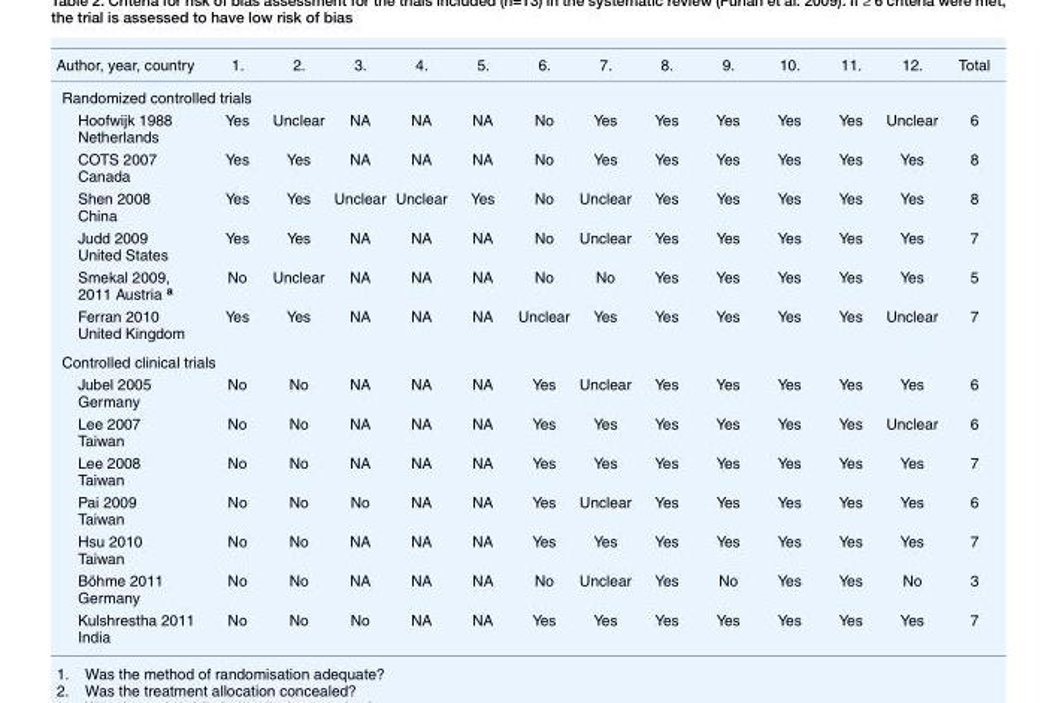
<table><thead><tr><td>Author, year, country</td><td>1.</td><td>2.</td><td>3.</td><td>4.</td><td>5.</td><td>6.</td><td>7.</td><td>8.</td><td>9.</td><td>10.</td><td>11.</td><td>12.</td><td>Total</td></tr></thead><tbody><tr><td colspan="14">Randomized controlled trials</td></tr><tr><td>Hoofwijk 1988 Netherlands</td><td>Yes</td><td>Unclear</td><td>NA</td><td>NA</td><td>NA</td><td>No</td><td>Yes</td><td>Yes</td><td>Yes</td><td>Yes</td><td>Yes</td><td>Unclear</td><td>6</td></tr><tr><td>COTS 2007 Canada</td><td>Yes</td><td>Yes</td><td>NA</td><td>NA</td><td>NA</td><td>No</td><td>Yes</td><td>Yes</td><td>Yes</td><td>Yes</td><td>Yes</td><td>Yes</td><td>8</td></tr><tr><td>Shen 2008 China</td><td>Yes</td><td>Yes</td><td>Unclear</td><td>Unclear</td><td>Yes</td><td>No</td><td>Unclear</td><td>Yes</td><td>Yes</td><td>Yes</td><td>Yes</td><td>Yes</td><td>8</td></tr><tr><td>Judd 2009 United States</td><td>Yes</td><td>Yes</td><td>NA</td><td>NA</td><td>NA</td><td>No</td><td>Unclear</td><td>Yes</td><td>Yes</td><td>Yes</td><td>Yes</td><td>Yes</td><td>7</td></tr><tr><td>Smekal 2009, 2011 Austria <sup>a</sup></td><td>No</td><td>Unclear</td><td>NA</td><td>NA</td><td>NA</td><td>No</td><td>No</td><td>Yes</td><td>Yes</td><td>Yes</td><td>Yes</td><td>Yes</td><td>5</td></tr><tr><td>Ferran 2010 United Kingdom</td><td>Yes</td><td>Yes</td><td>NA</td><td>NA</td><td>NA</td><td>Unclear</td><td>Yes</td><td>Yes</td><td>Yes</td><td>Yes</td><td>Yes</td><td>Unclear</td><td>7</td></tr><tr><td colspan="14">Controlled clinical trials</td></tr><tr><td>Jubel 2005 Germany</td><td>No</td><td>No</td><td>NA</td><td>NA</td><td>NA</td><td>Yes</td><td>Unclear</td><td>Yes</td><td>Yes</td><td>Yes</td><td>Yes</td><td>Yes</td><td>6</td></tr><tr><td>Lee 2007 Taiwan</td><td>No</td><td>No</td><td>NA</td><td>NA</td><td>NA</td><td>Yes</td><td>Yes</td><td>Yes</td><td>Yes</td><td>Yes</td><td>Yes</td><td>Unclear</td><td>6</td></tr><tr><td>Lee 2008 Taiwan</td><td>No</td><td>No</td><td>NA</td><td>NA</td><td>NA</td><td>Yes</td><td>Yes</td><td>Yes</td><td>Yes</td><td>Yes</td><td>Yes</td><td>Yes</td><td>7</td></tr><tr><td>Pai 2009 Taiwan</td><td>No</td><td>No</td><td>No</td><td>NA</td><td>NA</td><td>Yes</td><td>Unclear</td><td>Yes</td><td>Yes</td><td>Yes</td><td>Yes</td><td>Yes</td><td>6</td></tr><tr><td>Hsu 2010 Taiwan</td><td>No</td><td>No</td><td>NA</td><td>NA</td><td>NA</td><td>Yes</td><td>Yes</td><td>Yes</td><td>Yes</td><td>Yes</td><td>Yes</td><td>Yes</td><td>7</td></tr><tr><td>Böhme 2011 Germany</td><td>No</td><td>No</td><td>NA</td><td>NA</td><td>NA</td><td>No</td><td>Unclear</td><td>Yes</td><td>No</td><td>Yes</td><td>Yes</td><td>No</td><td>3</td></tr><tr><td>Kulshrestha 2011 India</td><td>No</td><td>No</td><td>No</td><td>NA</td><td>NA</td><td>Yes</td><td>Yes</td><td>Yes</td><td>Yes</td><td>Yes</td><td>Yes</td><td>Yes</td><td>7</td></tr></tbody></table>